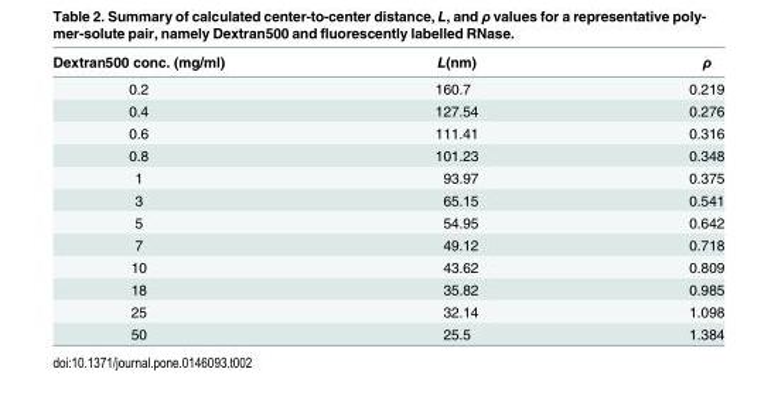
<table><thead><tr><td>Dextran500 conc. (mg/ml)</td><td>L(nm)</td><td>ρ</td></tr></thead><tbody><tr><td>0.2</td><td>160.7</td><td>0.219</td></tr><tr><td>0.4</td><td>127.54</td><td>0.276</td></tr><tr><td>0.6</td><td>111.41</td><td>0.316</td></tr><tr><td>0.8</td><td>101.23</td><td>0.348</td></tr><tr><td>1</td><td>93.97</td><td>0.375</td></tr><tr><td>3</td><td>65.15</td><td>0.541</td></tr><tr><td>5</td><td>54.95</td><td>0.642</td></tr><tr><td>7</td><td>49.12</td><td>0.718</td></tr><tr><td>10</td><td>43.62</td><td>0.809</td></tr><tr><td>18</td><td>35.82</td><td>0.985</td></tr><tr><td>25</td><td>32.14</td><td>1.098</td></tr><tr><td>50</td><td>25.5</td><td>1.384</td></tr></tbody></table>